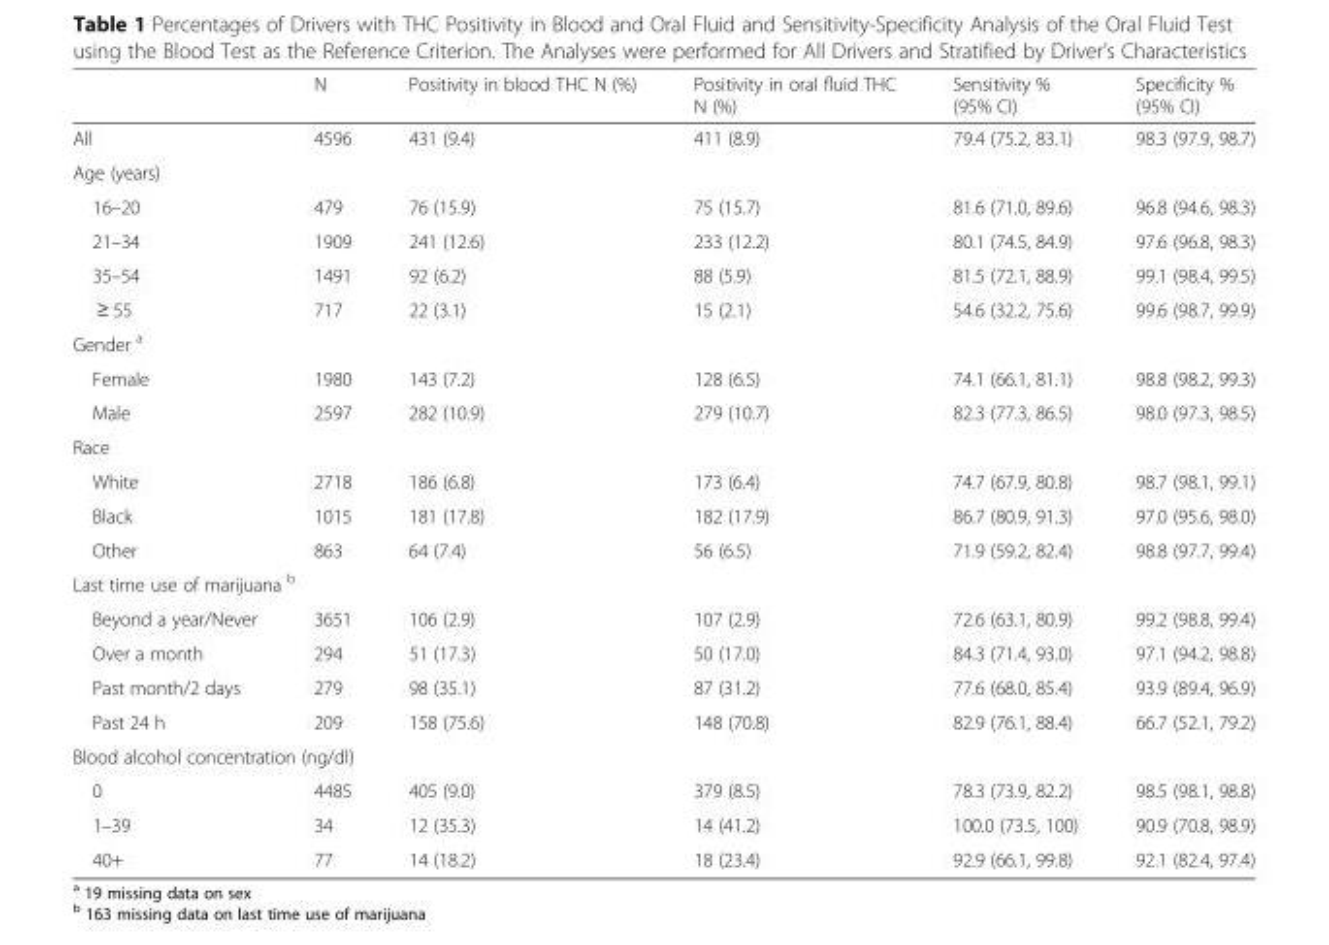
<table><thead><tr><td></td><td>N</td><td>Positivity in blood THC N (%)</td><td>Positivity in oral fluid THC N (%)</td><td>Sensitivity % (95% CI)</td><td>Specificity % (95% CI)</td></tr></thead><tbody><tr><td>All</td><td>4596</td><td>431 (9.4)</td><td>411 (8.9)</td><td>79.4 (75.2, 83.1)</td><td>98.3 (97.9, 98.7)</td></tr><tr><td colspan="6">Age (years)</td></tr><tr><td>16–20</td><td>479</td><td>76 (15.9)</td><td>75 (15.7)</td><td>81.6 (71.0, 89.6)</td><td>96.8 (94.6, 98.3)</td></tr><tr><td>21–34</td><td>1909</td><td>241 (12.6)</td><td>233 (12.2)</td><td>80.1 (74.5, 84.9)</td><td>97.6 (96.8, 98.3)</td></tr><tr><td>35–54</td><td>1491</td><td>92 (6.2)</td><td>88 (5.9)</td><td>81.5 (72.1, 88.9)</td><td>99.1 (98.4, 99.5)</td></tr><tr><td>≥ 55</td><td>717</td><td>22 (3.1)</td><td>15 (2.1)</td><td>54.6 (32.2, 75.6)</td><td>99.6 (98.7, 99.9)</td></tr><tr><td colspan="6">Gender <sup>a</sup></td></tr><tr><td>Female</td><td>1980</td><td>143 (7.2)</td><td>128 (6.5)</td><td>74.1 (66.1, 81.1)</td><td>98.8 (98.2, 99.3)</td></tr><tr><td>Male</td><td>2597</td><td>282 (10.9)</td><td>279 (10.7)</td><td>82.3 (77.3, 86.5)</td><td>98.0 (97.3, 98.5)</td></tr><tr><td colspan="6">Race</td></tr><tr><td>White</td><td>2718</td><td>186 (6.8)</td><td>173 (6.4)</td><td>74.7 (67.9, 80.8)</td><td>98.7 (98.1, 99.1)</td></tr><tr><td>Black</td><td>1015</td><td>181 (17.8)</td><td>182 (17.9)</td><td>86.7 (80.9, 91.3)</td><td>97.0 (95.6, 98.0)</td></tr><tr><td>Other</td><td>863</td><td>64 (7.4)</td><td>56 (6.5)</td><td>71.9 (59.2, 82.4)</td><td>98.8 (97.7, 99.4)</td></tr><tr><td colspan="6">Last time use of marijuana <sup>b</sup></td></tr><tr><td>Beyond a year/Never</td><td>3651</td><td>106 (2.9)</td><td>107 (2.9)</td><td>72.6 (63.1, 80.9)</td><td>99.2 (98.8, 99.4)</td></tr><tr><td>Over a month</td><td>294</td><td>51 (17.3)</td><td>50 (17.0)</td><td>84.3 (71.4, 93.0)</td><td>97.1 (94.2, 98.8)</td></tr><tr><td>Past month/2 days</td><td>279</td><td>98 (35.1)</td><td>87 (31.2)</td><td>77.6 (68.0, 85.4)</td><td>93.9 (89.4, 96.9)</td></tr><tr><td>Past 24 h</td><td>209</td><td>158 (75.6)</td><td>148 (70.8)</td><td>82.9 (76.1, 88.4)</td><td>66.7 (52.1, 79.2)</td></tr><tr><td colspan="6">Blood alcohol concentration (ng/dl)</td></tr><tr><td>0</td><td>4485</td><td>405 (9.0)</td><td>379 (8.5)</td><td>78.3 (73.9, 82.2)</td><td>98.5 (98.1, 98.8)</td></tr><tr><td>1–39</td><td>34</td><td>12 (35.3)</td><td>14 (41.2)</td><td>100.0 (73.5, 100)</td><td>90.9 (70.8, 98.9)</td></tr><tr><td>40+</td><td>77</td><td>14 (18.2)</td><td>18 (23.4)</td><td>92.9 (66.1, 99.8)</td><td>92.1 (82.4, 97.4)</td></tr></tbody></table>